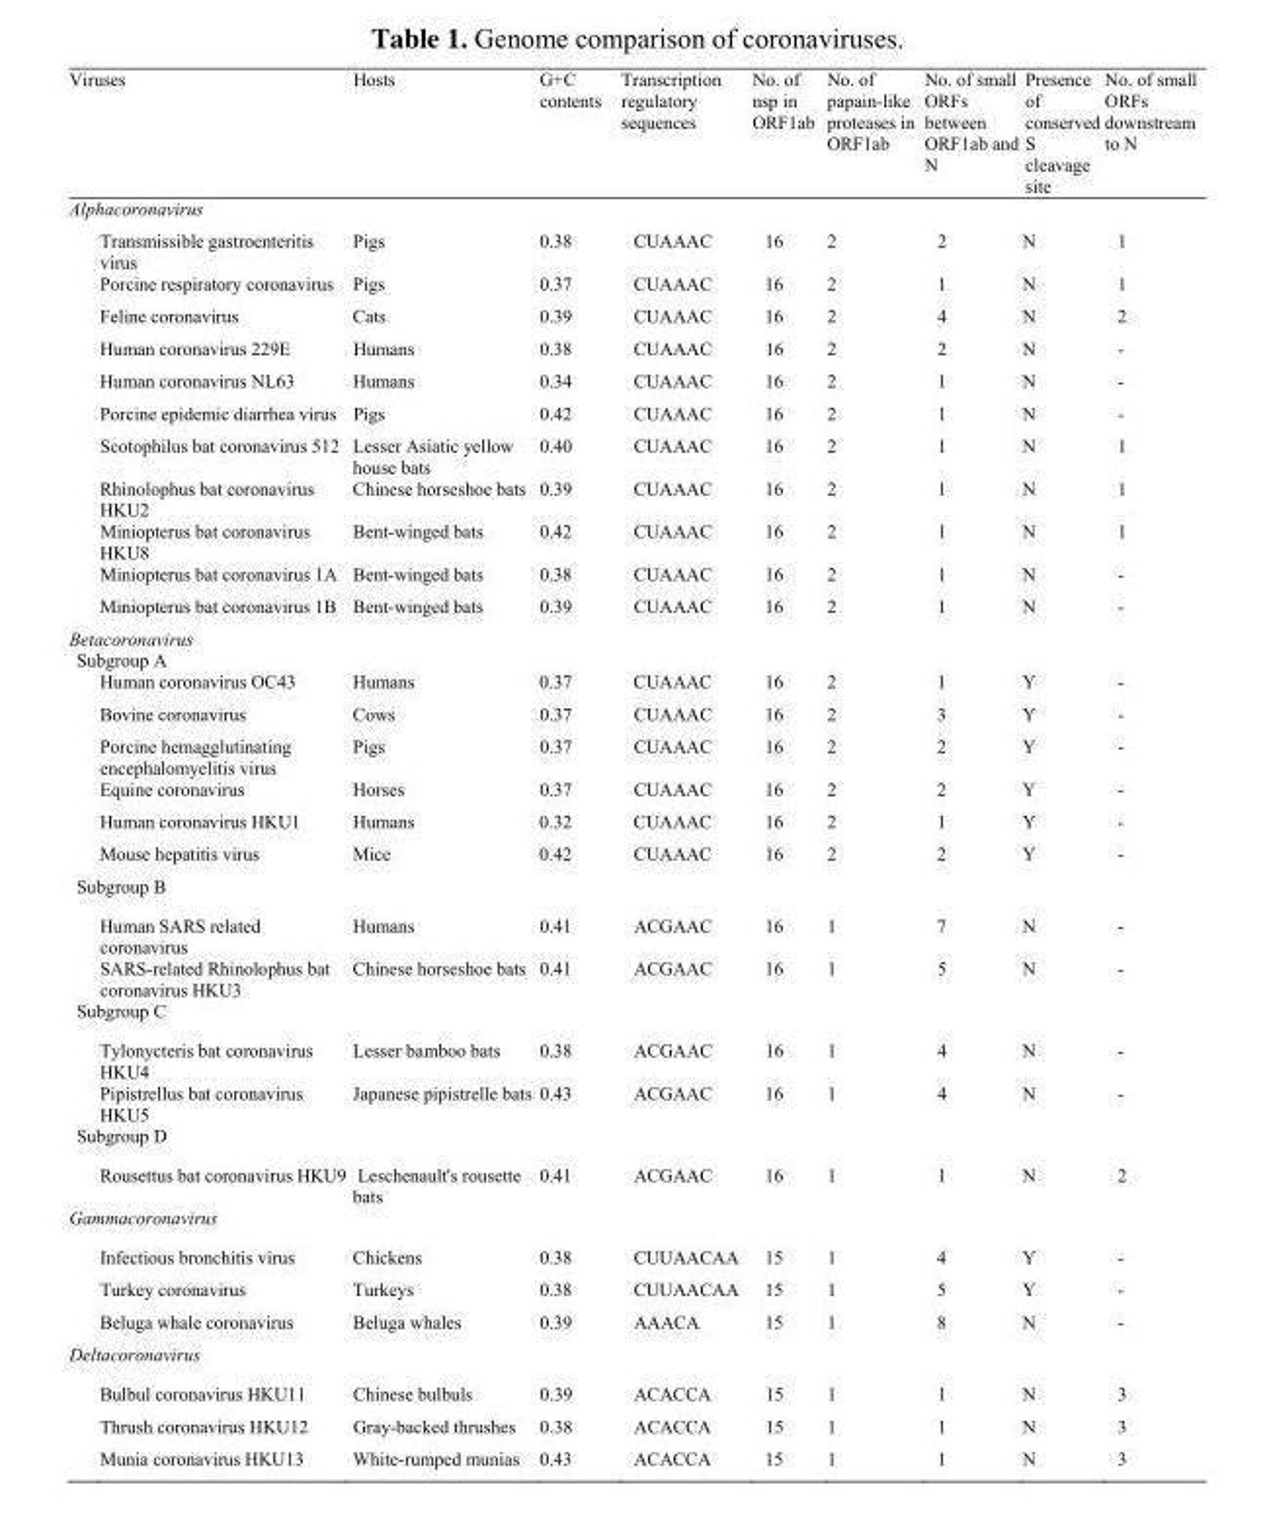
<table><thead><tr><td>Viruses</td><td>Hosts</td><td>G+C contents</td><td>Transcription regulatory sequences</td><td>No. of nsp in ORF1ab</td><td>No. of papain-like proteases in ORF1ab</td><td>No. of small ORFs between ORF1ab and N</td><td>Presence of conserved S cleavage site</td><td>No. of small ORFs downstream to N</td></tr></thead><tbody><tr><td colspan="9">Alphacoronavirus</td></tr><tr><td>Transmissible gastroenteritis virus</td><td>Pigs</td><td>0.38</td><td>CUAAAC</td><td>16</td><td>2</td><td>2</td><td>N</td><td>1</td></tr><tr><td>Porcine respiratory coronavirus</td><td>Pigs</td><td>0.37</td><td>CUAAAC</td><td>16</td><td>2</td><td>1</td><td>N</td><td>1</td></tr><tr><td>Feline coronavirus</td><td>Cats</td><td>0.39</td><td>CUAAAC</td><td>16</td><td>2</td><td>4</td><td>N</td><td>2</td></tr><tr><td>Human coronavirus 229E</td><td>Humans</td><td>0.38</td><td>CUAAAC</td><td>16</td><td>2</td><td>2</td><td>N</td><td>-</td></tr><tr><td>Human coronavirus NL63</td><td>Humans</td><td>0.34</td><td>CUAAAC</td><td>16</td><td>2</td><td>1</td><td>N</td><td>-</td></tr><tr><td>Porcine epidemic diarrhea virus</td><td>Pigs</td><td>0.42</td><td>CUAAAC</td><td>16</td><td>2</td><td>1</td><td>N</td><td>-</td></tr><tr><td>Scotophilus bat coronavirus 512</td><td>Lesser Asiatic yellow house bats</td><td>0.40</td><td>CUAAAC</td><td>16</td><td>2</td><td>1</td><td>N</td><td>1</td></tr><tr><td>Rhinolophus bat coronavirus HKU2</td><td>Chinese horseshoe bats</td><td>0.39</td><td>CUAAAC</td><td>16</td><td>2</td><td>1</td><td>N</td><td>1</td></tr><tr><td>Miniopterus bat coronavirus HKU8</td><td>Bent-winged bats</td><td>0.42</td><td>CUAAAC</td><td>16</td><td>2</td><td>1</td><td>N</td><td>1</td></tr><tr><td>Miniopterus bat coronavirus 1A</td><td>Bent-winged bats</td><td>0.38</td><td>CUAAAC</td><td>16</td><td>2</td><td>1</td><td>N</td><td>-</td></tr><tr><td>Miniopterus bat coronavirus 1B</td><td>Bent-winged bats</td><td>0.39</td><td>CUAAAC</td><td>16</td><td>2</td><td>1</td><td>N</td><td>-</td></tr><tr><td colspan="9">Betacoronavirus</td></tr><tr><td colspan="9">Subgroup A</td></tr><tr><td>Human coronavirus OC43</td><td>Humans</td><td>0.37</td><td>CUAAAC</td><td>16</td><td>2</td><td>1</td><td>Y</td><td>-</td></tr><tr><td>Bovine coronavirus</td><td>Cows</td><td>0.37</td><td>CUAAAC</td><td>16</td><td>2</td><td>3</td><td>Y</td><td>-</td></tr><tr><td>Porcine hemagglutinating encephalomyelitis virus</td><td>Pigs</td><td>0.37</td><td>CUAAAC</td><td>16</td><td>2</td><td>2</td><td>Y</td><td>-</td></tr><tr><td>Equine coronavirus</td><td>Horses</td><td>0.37</td><td>CUAAAC</td><td>16</td><td>2</td><td>2</td><td>Y</td><td>-</td></tr><tr><td>Human coronavirus HKU1</td><td>Humans</td><td>0.32</td><td>CUAAAC</td><td>16</td><td>2</td><td>1</td><td>Y</td><td>-</td></tr><tr><td>Mouse hepatitis virus</td><td>Mice</td><td>0.42</td><td>CUAAAC</td><td>16</td><td>2</td><td>2</td><td>Y</td><td>-</td></tr><tr><td colspan="9">Subgroup B</td></tr><tr><td>Human SARS related coronavirus</td><td>Humans</td><td>0.41</td><td>ACGAAC</td><td>16</td><td>1</td><td>7</td><td>N</td><td>-</td></tr><tr><td>SARS-related Rhinolophus bat coronavirus HKU3</td><td>Chinese horseshoe bats</td><td>0.41</td><td>ACGAAC</td><td>16</td><td>1</td><td>5</td><td>N</td><td>-</td></tr><tr><td colspan="9">Subgroup C</td></tr><tr><td>Tylonycteris bat coronavirus HKU4</td><td>Lesser bamboo bats</td><td>0.38</td><td>ACGAAC</td><td>16</td><td>1</td><td>4</td><td>N</td><td>-</td></tr><tr><td>Pipistrellus bat coronavirus HKU5</td><td>Japanese pipistrelle bats</td><td>0.43</td><td>ACGAAC</td><td>16</td><td>1</td><td>4</td><td>N</td><td>-</td></tr><tr><td colspan="9">Subgroup D</td></tr><tr><td>Rousettus bat coronavirus HKU9</td><td>Leschenault&#x27;s rousette bats</td><td>0.41</td><td>ACGAAC</td><td>16</td><td>1</td><td>1</td><td>N</td><td>2</td></tr><tr><td colspan="9">Gammacoronavirus</td></tr><tr><td>Infectious bronchitis virus</td><td>Chickens</td><td>0.38</td><td>CUUAACAA</td><td>15</td><td>1</td><td>4</td><td>Y</td><td>-</td></tr><tr><td>Turkey coronavirus</td><td>Turkeys</td><td>0.38</td><td>CUUAACAA</td><td>15</td><td>1</td><td>5</td><td>Y</td><td>-</td></tr><tr><td>Beluga whale coronavirus</td><td>Beluga whales</td><td>0.39</td><td>AAACA</td><td>15</td><td>1</td><td>8</td><td>N</td><td>-</td></tr><tr><td colspan="9">Deltacoronavirus</td></tr><tr><td>Bulbul coronavirus HKU11</td><td>Chinese bulbuls</td><td>0.39</td><td>ACACCA</td><td>15</td><td>1</td><td>1</td><td>N</td><td>3</td></tr><tr><td>Thrush coronavirus HKU12</td><td>Gray-backed thrushes</td><td>0.38</td><td>ACACCA</td><td>15</td><td>1</td><td>1</td><td>N</td><td>3</td></tr><tr><td>Munia coronavirus HKU13</td><td>White-rumped munias</td><td>0.43</td><td>ACACCA</td><td>15</td><td>1</td><td>1</td><td>N</td><td>3</td></tr></tbody></table>